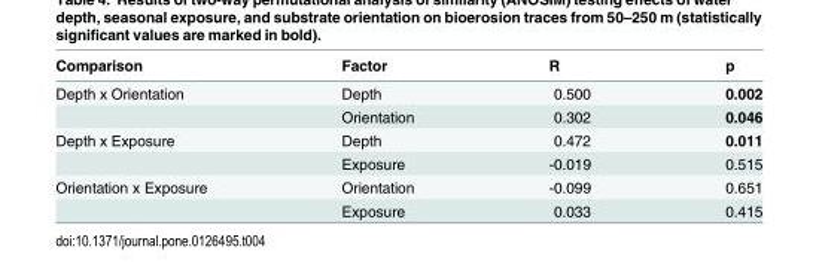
<table><thead><tr><td>Comparison</td><td>Factor</td><td>R</td><td>p</td></tr></thead><tbody><tr><td rowspan="2">Depth x Orientation</td><td>Depth</td><td>0.500</td><td>0.002</td></tr><tr><td>Orientation</td><td>0.302</td><td>0.046</td></tr><tr><td rowspan="2">Depth x Exposure</td><td>Depth</td><td>0.472</td><td>0.011</td></tr><tr><td>Exposure</td><td>-0.019</td><td>0.515</td></tr><tr><td rowspan="2">Orientation x Exposure</td><td>Orientation</td><td>-0.099</td><td>0.651</td></tr><tr><td>Exposure</td><td>0.033</td><td>0.415</td></tr></tbody></table>